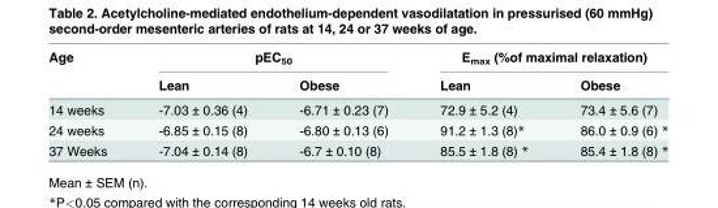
<table><thead><tr><td rowspan="2">Age</td><td colspan="2">pEC<sub>50</sub></td><td colspan="2">E<sub>max</sub> (%of maximal relaxation)</td></tr><tr><td>Lean</td><td>Obese</td><td>Lean</td><td>Obese</td></tr></thead><tbody><tr><td>14 weeks</td><td>-7.03 ± 0.36 (4)</td><td>-6.71 ± 0.23 (7)</td><td>72.9 ± 5.2 (4)</td><td>73.4 ± 5.6 (7)</td></tr><tr><td>24 weeks</td><td>-6.85 ± 0.15 (8)</td><td>-6.80 ± 0.13 (6)</td><td>91.2 ± 1.3 (8)*</td><td>86.0 ± 0.9 (6) *</td></tr><tr><td>37 Weeks</td><td>-7.04 ± 0.14 (8)</td><td>-6.7 ± 0.10 (8)</td><td>85.5 ± 1.8 (8) *</td><td>85.4 ± 1.8 (8) *</td></tr></tbody></table>